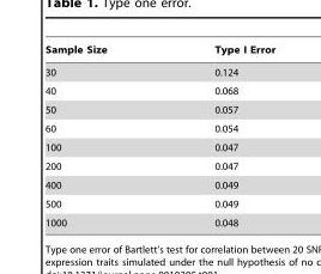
<table><thead><tr><td>Sample Size</td><td>Type I Error</td></tr></thead><tbody><tr><td>30</td><td>0.124</td></tr><tr><td>40</td><td>0.068</td></tr><tr><td>50</td><td>0.057</td></tr><tr><td>60</td><td>0.054</td></tr><tr><td>100</td><td>0.047</td></tr><tr><td>200</td><td>0.047</td></tr><tr><td>400</td><td>0.049</td></tr><tr><td>500</td><td>0.049</td></tr><tr><td>1000</td><td>0.048</td></tr></tbody></table>